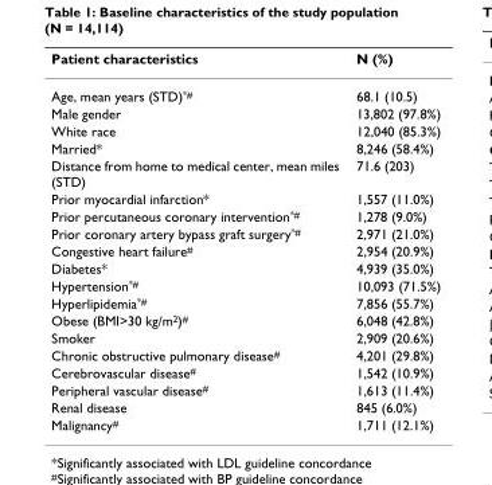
<table><thead><tr><td>Patient characteristics</td><td>N (%)</td></tr></thead><tbody><tr><td>Age, mean years (STD)<sup>*#</sup></td><td>68.1 (10.5)</td></tr><tr><td>Male gender</td><td>13,802 (97.8%)</td></tr><tr><td>White race</td><td>12,040 (85.3%)</td></tr><tr><td>Married*</td><td>8,246 (58.4%)</td></tr><tr><td>Distance from home to medical center, mean miles (STD)</td><td>71.6 (203)</td></tr><tr><td>Prior myocardial infarction*</td><td>1,557 (11.0%)</td></tr><tr><td>Prior percutaneous coronary intervention<sup>*#</sup></td><td>1,278 (9.0%)</td></tr><tr><td>Prior coronary artery bypass graft surgery<sup>*#</sup></td><td>2,971 (21.0%)</td></tr><tr><td>Congestive heart failure<sup>#</sup></td><td>2,954 (20.9%)</td></tr><tr><td>Diabetes*</td><td>4,939 (35.0%)</td></tr><tr><td>Hypertension<sup>*#</sup></td><td>10,093 (71.5%)</td></tr><tr><td>Hyperlipidemia<sup>*#</sup></td><td>7,856 (55.7%)</td></tr><tr><td>Obese (BMI&gt;30 kg/m<sup>2</sup>)<sup>#</sup></td><td>6,048 (42.8%)</td></tr><tr><td>Smoker</td><td>2,909 (20.6%)</td></tr><tr><td>Chronic obstructive pulmonary disease<sup>#</sup></td><td>4,201 (29.8%)</td></tr><tr><td>Cerebrovascular disease<sup>#</sup></td><td>1,542 (10.9%)</td></tr><tr><td>Peripheral vascular disease<sup>#</sup></td><td>1,613 (11.4%)</td></tr><tr><td>Renal disease</td><td>845 (6.0%)</td></tr><tr><td>Malignancy<sup>#</sup></td><td>1,711 (12.1%)</td></tr></tbody></table>